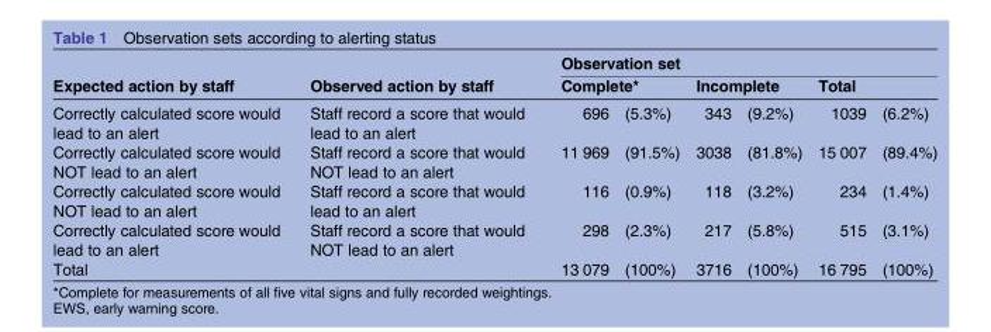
<table><thead><tr><td rowspan="3">Expected action by staff Correctly calculated score would lead to an alert</td><td rowspan="3">Observed action by staff Staff record a score that would lead to an alert</td><td colspan="6">Observation set</td></tr><tr><td colspan="2">Complete*</td><td colspan="2">Incomplete</td><td colspan="2">Total</td></tr><tr><td>696</td><td>(5.3%)</td><td>343</td><td>(9.2%)</td><td>1039</td><td>(6.2%)</td></tr></thead><tbody><tr><td>Correctly calculated score would NOT lead to an alert</td><td>Staff record a score that would NOT lead to an alert</td><td>11 969</td><td>(91.5%)</td><td>3038</td><td>(81.8%)</td><td>15 007</td><td>(89.4%)</td></tr><tr><td>Correctly calculated score would NOT lead to an alert</td><td>Staff record a score that would lead to an alert</td><td>116</td><td>(0.9%)</td><td>118</td><td>(3.2%)</td><td>234</td><td>(1.4%)</td></tr><tr><td>Correctly calculated score would lead to an alert</td><td>Staff record a score that would NOT lead to an alert</td><td>298</td><td>(2.3%)</td><td>217</td><td>(5.8%)</td><td>515</td><td>(3.1%)</td></tr><tr><td colspan="2">Total</td><td>13 079</td><td>(100%)</td><td>3716</td><td>(100%)</td><td>16 795</td><td>(100%)</td></tr></tbody></table>